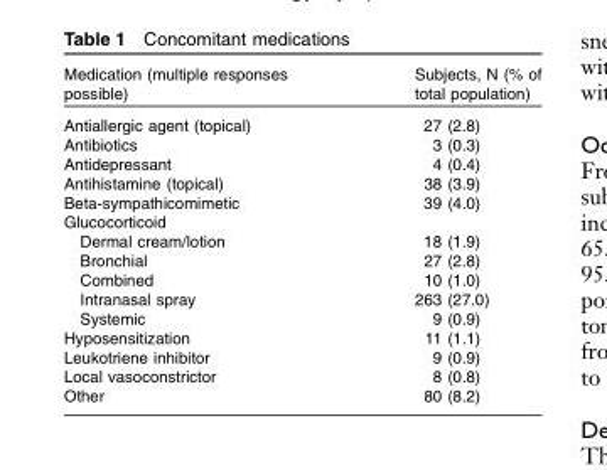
<table><thead><tr><td>Medication (multiple responses possible)</td><td>Subjects, N (% of total population)</td></tr></thead><tbody><tr><td>Antiallergic agent (topical)</td><td>27 (2.8)</td></tr><tr><td>Antibiotics</td><td>3 (0.3)</td></tr><tr><td>Antidepressant</td><td>4 (0.4)</td></tr><tr><td>Antihistamine (topical)</td><td>38 (3.9)</td></tr><tr><td>Beta-sympathicomimetic</td><td>39 (4.0)</td></tr><tr><td colspan="2">Glucocorticoid</td></tr><tr><td>Dermal cream/lotion</td><td>18 (1.9)</td></tr><tr><td>Bronchial</td><td>27 (2.8)</td></tr><tr><td>Combined</td><td>10 (1.0)</td></tr><tr><td>Intranasal spray</td><td>263 (27.0)</td></tr><tr><td>Systemic</td><td>9 (0.9)</td></tr><tr><td>Hyposensitization</td><td>11 (1.1)</td></tr><tr><td>Leukotriene inhibitor</td><td>9 (0.9)</td></tr><tr><td>Local vasoconstrictor</td><td>8 (0.8)</td></tr><tr><td>Other</td><td>80 (8.2)</td></tr></tbody></table>